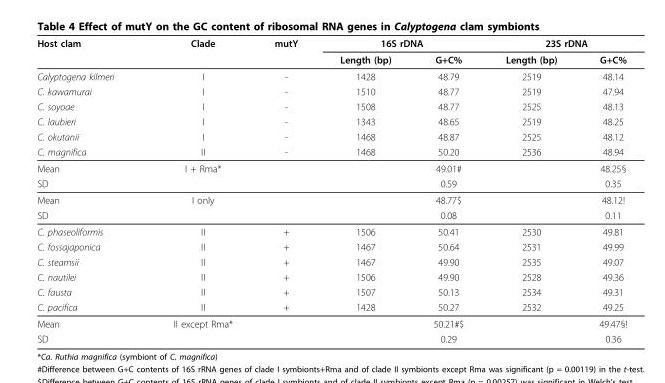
<table><thead><tr><td rowspan="2">Host clam</td><td rowspan="2">Clade</td><td rowspan="2">mutY</td><td colspan="2">16S rDNA</td><td colspan="2">23S rDNA</td></tr><tr><td>Length (bp)</td><td>G+C%</td><td>Length (bp)</td><td>G+C%</td></tr></thead><tbody><tr><td>Calyptogena kilmeri</td><td>I</td><td>-</td><td>1428</td><td>48.79</td><td>2519</td><td>48.14</td></tr><tr><td>C. kawamurai</td><td>I</td><td>-</td><td>1510</td><td>48.77</td><td>2519</td><td>47.94</td></tr><tr><td>C. soyoae</td><td>I</td><td>-</td><td>1508</td><td>48.77</td><td>2525</td><td>48.13</td></tr><tr><td>C. laubieri</td><td>I</td><td>-</td><td>1343</td><td>48.65</td><td>2519</td><td>48.25</td></tr><tr><td>C. okutanii</td><td>I</td><td>-</td><td>1468</td><td>48.87</td><td>2525</td><td>48.12</td></tr><tr><td>C. magnifica</td><td>II</td><td>-</td><td>1468</td><td>50.20</td><td>2536</td><td>48.94</td></tr><tr><td>Mean</td><td>I + Rma*</td><td></td><td></td><td>49.01#</td><td></td><td>48.25§</td></tr><tr><td>SD</td><td></td><td></td><td></td><td>0.59</td><td></td><td>0.35</td></tr><tr><td>Mean</td><td>I only</td><td></td><td></td><td>48.77$</td><td></td><td>48.12!</td></tr><tr><td>SD</td><td></td><td></td><td></td><td>0.08</td><td></td><td>0.11</td></tr><tr><td>C. phaseoliformis</td><td>II</td><td>+</td><td>1506</td><td>50.41</td><td>2530</td><td>49.81</td></tr><tr><td>C. fossajaponica</td><td>II</td><td>+</td><td>1467</td><td>50.64</td><td>2531</td><td>49.99</td></tr><tr><td>C. stearnsii</td><td>II</td><td>+</td><td>1467</td><td>49.90</td><td>2535</td><td>49.07</td></tr><tr><td>C. nautilei</td><td>II</td><td>+</td><td>1506</td><td>49.90</td><td>2528</td><td>49.36</td></tr><tr><td>C. fausta</td><td>II</td><td>+</td><td>1507</td><td>50.13</td><td>2534</td><td>49.31</td></tr><tr><td>C. pacifica</td><td>II</td><td>+</td><td>1428</td><td>50.27</td><td>2532</td><td>49.25</td></tr><tr><td>Mean</td><td>II except Rma*</td><td></td><td></td><td>50.21#$</td><td></td><td>49.47§!</td></tr><tr><td>SD</td><td></td><td></td><td></td><td>0.29</td><td></td><td>0.36</td></tr></tbody></table>